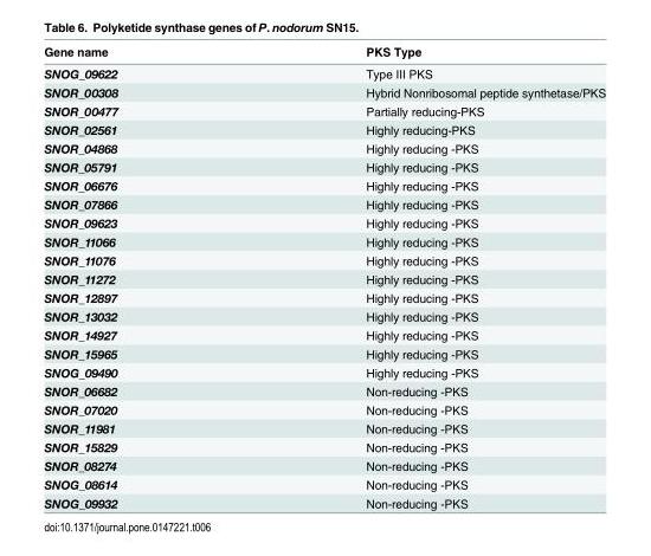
<table><thead><tr><td>Gene name</td><td>PKS Type</td></tr></thead><tbody><tr><td>SNOG_09622</td><td>Type III PKS</td></tr><tr><td>SNOR_00308</td><td>Hybrid Nonribosomal peptide synthetase/PKS</td></tr><tr><td>SNOR_00477</td><td>Partially reducing-PKS</td></tr><tr><td>SNOR_02561</td><td>Highly reducing-PKS</td></tr><tr><td>SNOR_04868</td><td>Highly reducing -PKS</td></tr><tr><td>SNOR_05791</td><td>Highly reducing -PKS</td></tr><tr><td>SNOR_06676</td><td>Highly reducing -PKS</td></tr><tr><td>SNOR_07866</td><td>Highly reducing -PKS</td></tr><tr><td>SNOR_09623</td><td>Highly reducing -PKS</td></tr><tr><td>SNOR_11066</td><td>Highly reducing -PKS</td></tr><tr><td>SNOR_11076</td><td>Highly reducing -PKS</td></tr><tr><td>SNOR_11272</td><td>Highly reducing -PKS</td></tr><tr><td>SNOR_12897</td><td>Highly reducing -PKS</td></tr><tr><td>SNOR_13032</td><td>Highly reducing -PKS</td></tr><tr><td>SNOR_14927</td><td>Highly reducing -PKS</td></tr><tr><td>SNOR_15965</td><td>Highly reducing -PKS</td></tr><tr><td>SNOG_09490</td><td>Highly reducing -PKS</td></tr><tr><td>SNOR_06682</td><td>Non-reducing -PKS</td></tr><tr><td>SNOR_07020</td><td>Non-reducing -PKS</td></tr><tr><td>SNOR_11981</td><td>Non-reducing -PKS</td></tr><tr><td>SNOR_15829</td><td>Non-reducing -PKS</td></tr><tr><td>SNOR_08274</td><td>Non-reducing -PKS</td></tr><tr><td>SNOG_08614</td><td>Non-reducing -PKS</td></tr><tr><td>SNOG_09932</td><td>Non-reducing -PKS</td></tr></tbody></table>